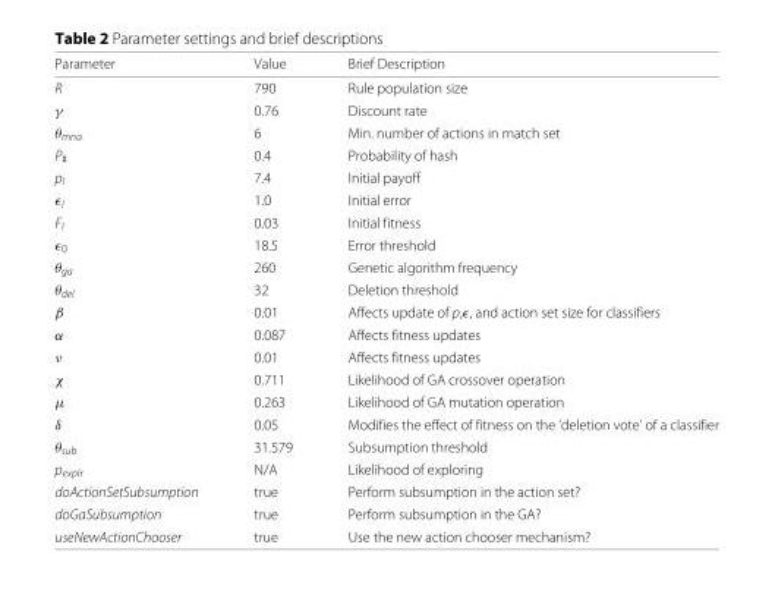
<table><thead><tr><td>Parameter</td><td>Value</td><td>Brief Description</td></tr></thead><tbody><tr><td>R</td><td>790</td><td>Rule population size</td></tr><tr><td>γ</td><td>0.76</td><td>Discount rate</td></tr><tr><td>θ<sub>mna</sub></td><td>6</td><td>Min. number of actions in match set</td></tr><tr><td>P<sub>#</sub></td><td>0.4</td><td>Probability of hash</td></tr><tr><td>p<sub>I</sub></td><td>7.4</td><td>Initial payoff</td></tr><tr><td>ϵ<sub>I</sub></td><td>1.0</td><td>Initial error</td></tr><tr><td>F<sub>I</sub></td><td>0.03</td><td>Initial fitness</td></tr><tr><td>ϵ<sub>0</sub></td><td>18.5</td><td>Error threshold</td></tr><tr><td>θ<sub>ga</sub></td><td>260</td><td>Genetic algorithm frequency</td></tr><tr><td>θ<sub>del</sub></td><td>32</td><td>Deletion threshold</td></tr><tr><td>β</td><td>0.01</td><td>Affects update of p,ϵ, and action set size for classifiers</td></tr><tr><td>α</td><td>0.087</td><td>Affects fitness updates</td></tr><tr><td>ν</td><td>0.01</td><td>Affects fitness updates</td></tr><tr><td>χ</td><td>0.711</td><td>Likelihood of GA crossover operation</td></tr><tr><td>μ</td><td>0.263</td><td>Likelihood of GA mutation operation</td></tr><tr><td>δ</td><td>0.05</td><td>Modifies the effect of fitness on the ‘deletion vote’ of a classifier</td></tr><tr><td>θ<sub>sub</sub></td><td>31.579</td><td>Subsumption threshold</td></tr><tr><td>p<sub>explr</sub></td><td>N/A</td><td>Likelihood of exploring</td></tr><tr><td>doActionSetSubsumption</td><td>true</td><td>Perform subsumption in the action set?</td></tr><tr><td>doGaSubsumption</td><td>true</td><td>Perform subsumption in the GA?</td></tr><tr><td>useNewActionChooser</td><td>true</td><td>Use the new action chooser mechanism?</td></tr></tbody></table>